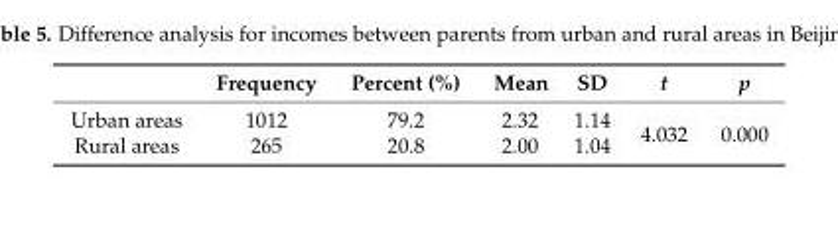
<table><thead><tr><td></td><td>Frequency</td><td>Percent (%)</td><td>Mean</td><td>SD</td><td>t</td><td>p</td></tr></thead><tbody><tr><td>Urban areas</td><td>1012</td><td>79.2</td><td>2.32</td><td>1.14</td><td rowspan="2">4.032</td><td rowspan="2">0.000</td></tr><tr><td>Rural areas</td><td>265</td><td>20.8</td><td>2.00</td><td>1.04</td></tr></tbody></table>